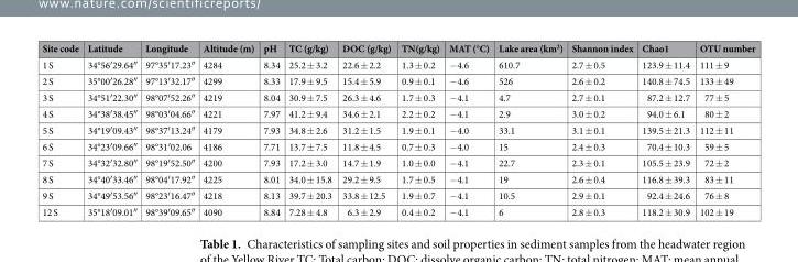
<table><thead><tr><td>Site code</td><td>Latitude</td><td>Longitude</td><td>Altitude (m)</td><td>pH</td><td>TC (g/kg)</td><td>DOC (g/kg)</td><td>TN(g/kg)</td><td>MAT (°C)</td><td>Lake area (km<sup>2</sup>)</td><td>Shannon index</td><td>Chao1</td><td>OTU number</td></tr></thead><tbody><tr><td>1 S</td><td>34°56′29.64″</td><td>97°35′17.23″</td><td>4284</td><td>8.34</td><td>25.2 ± 3.2</td><td>22.6 ± 2.2</td><td>1.3 ± 0.2</td><td>−4.6</td><td>610.7</td><td>2.7 ± 0.5</td><td>123.9 ± 11.4</td><td>111 ± 9</td></tr><tr><td>2 S</td><td>35°00′26.28″</td><td>97°13′32.17″</td><td>4299</td><td>8.33</td><td>17.9 ± 9.5</td><td>15.4 ± 5.9</td><td>0.9 ± 0.1</td><td>−4.6</td><td>526</td><td>2.6 ± 0.2</td><td>140.8 ± 74.5</td><td>133 ± 49</td></tr><tr><td>3 S</td><td>34°51′22.30″</td><td>98°07′52.26″</td><td>4219</td><td>8.04</td><td>30.9 ± 7.5</td><td>26.3 ± 4.6</td><td>1.7 ± 0.3</td><td>−4.1</td><td>4.7</td><td>2.7 ± 0.1</td><td>87.2 ± 12.7</td><td>77 ± 5</td></tr><tr><td>4 S</td><td>34°38′38.45″</td><td>98°03′04.66″</td><td>4221</td><td>7.97</td><td>41.2 ± 9.4</td><td>34.6 ± 2.1</td><td>2.2 ± 0.2</td><td>−4.1</td><td>2.9</td><td>3.0 ± 0.2</td><td>94.0 ± 6.1</td><td>80 ± 2</td></tr><tr><td>5 S</td><td>34°19′09.43″</td><td>98°37′13.24″</td><td>4179</td><td>7.93</td><td>34.8 ± 2.6</td><td>31.2 ± 1.5</td><td>1.9 ± 0.1</td><td>−4.0</td><td>33.1</td><td>3.1 ± 0.1</td><td>139.5 ± 21.3</td><td>112 ± 11</td></tr><tr><td>6 S</td><td>34°23′09.66″</td><td>98°31′02.06</td><td>4186</td><td>7.71</td><td>13.7 ± 7.5</td><td>11.8 ± 4.5</td><td>0.7 ± 0.3</td><td>−4.0</td><td>15</td><td>2.4 ± 0.3</td><td>70.4 ± 10.3</td><td>59 ± 5</td></tr><tr><td>7 S</td><td>34°32′32.80″</td><td>98°19′52.50″</td><td>4200</td><td>7.93</td><td>17.2 ± 3.0</td><td>14.7 ± 1.9</td><td>1.0 ± 0.0</td><td>−4.1</td><td>22.7</td><td>2.3 ± 0.1</td><td>105.5 ± 23.9</td><td>72 ± 2</td></tr><tr><td>8 S</td><td>34°40′33.46″</td><td>98°04′17.92″</td><td>4225</td><td>8.01</td><td>34.0 ± 15.8</td><td>29.2 ± 9.5</td><td>1.7 ± 0.5</td><td>−4.1</td><td>19</td><td>2.6 ± 0.4</td><td>116.8 ± 39.3</td><td>83 ± 11</td></tr><tr><td>9 S</td><td>34°49′53.56″</td><td>98°23′16.47″</td><td>4218</td><td>8.13</td><td>39.7 ± 20.3</td><td>33.8 ± 12.5</td><td>1.9 ± 0.7</td><td>−4.1</td><td>10.5</td><td>2.9 ± 0.1</td><td>92.4 ± 24.6</td><td>76 ± 8</td></tr><tr><td>12 S</td><td>35°18′09.01″</td><td>98°39′09.65″</td><td>4090</td><td>8.84</td><td>7.28 ± 4.8</td><td>6.3 ± 2.9</td><td>0.4 ± 0.2</td><td>−4.1</td><td>6</td><td>2.8 ± 0.3</td><td>118.2 ± 30.9</td><td>102 ± 19</td></tr></tbody></table>